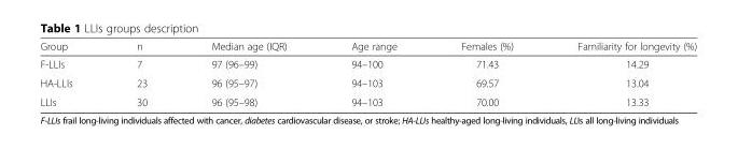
<table><thead><tr><td>Group</td><td>n</td><td>Median age (IQR)</td><td>Age range</td><td>Females (%)</td><td>Familiarity for longevity (%)</td></tr></thead><tbody><tr><td>F-LLIs</td><td>7</td><td>97 (96–99)</td><td>94–100</td><td>71.43</td><td>14.29</td></tr><tr><td>HA-LLIs</td><td>23</td><td>96 (95–97)</td><td>94–103</td><td>69.57</td><td>13.04</td></tr><tr><td>LLIs</td><td>30</td><td>96 (95–98)</td><td>94–103</td><td>70.00</td><td>13.33</td></tr></tbody></table>